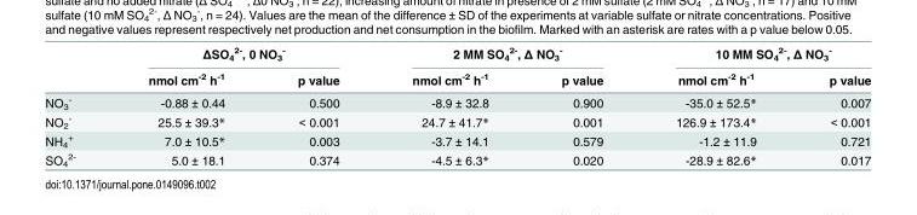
<table><thead><tr><td rowspan="2"></td><td colspan="2">ΔSO<sub>4</sub> <sup>2-</sup>, 0 NO<sub>3</sub> <sup>-</sup></td><td colspan="2">2 MM SO<sub>4</sub> <sup>2-</sup>, Δ NO<sub>3</sub> <sup>-</sup></td><td colspan="2">10 MM SO<sub>4</sub> <sup>2-</sup>, Δ NO<sub>3</sub> <sup>-</sup></td></tr><tr><td>nmol cm<sup>-2</sup> h<sup>-1</sup></td><td>p value</td><td>nmol cm<sup>-2</sup> h<sup>-1</sup></td><td>p value</td><td>nmol cm<sup>-2</sup> h<sup>-1</sup></td><td>p value</td></tr></thead><tbody><tr><td>NO<sub>3</sub> <sup>-</sup></td><td>-0.88 ± 0.44</td><td>0.500</td><td>-8.9 ± 32.8</td><td>0.900</td><td>-35.0 ± 52.5*</td><td>0.007</td></tr><tr><td>NO<sub>2</sub> <sup>-</sup></td><td>25.5 ± 39.3*</td><td>&lt; 0.001</td><td>24.7 ± 41.7*</td><td>0.001</td><td>126.9 ± 173.4*</td><td>&lt; 0.001</td></tr><tr><td>NH<sub>4</sub> <sup>+</sup></td><td>7.0 ± 10.5*</td><td>0.003</td><td>-3.7 ± 14.1</td><td>0.579</td><td>-1.2 ± 11.9</td><td>0.721</td></tr><tr><td>SO<sub>4</sub> <sup>2-</sup></td><td>5.0 ± 18.1</td><td>0.374</td><td>-4.5 ± 6.3*</td><td>0.020</td><td>-28.9 ± 82.6*</td><td>0.017</td></tr></tbody></table>